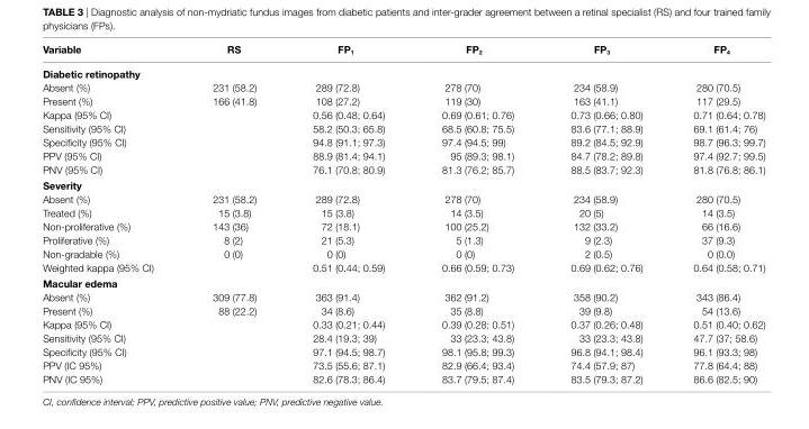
<table><thead><tr><td>Variable</td><td>rs</td><td>FP<sub>1</sub></td><td>FP<sub>2</sub></td><td>FP<sub>3</sub></td><td>FP<sub>4</sub></td></tr></thead><tbody><tr><td colspan="6">Diabetic retinopathy</td></tr><tr><td>Absent (%)</td><td>231 (58.2)</td><td>289 (72.8)</td><td>278 (70)</td><td>234 (58.9)</td><td>280 (70.5)</td></tr><tr><td>Present (%)</td><td>166 (41.8)</td><td>108 (27.2)</td><td>119 (30)</td><td>163 (41.1)</td><td>117 (29.5)</td></tr><tr><td>Kappa (95% CI)</td><td></td><td>0.56 (0.48; 0.64)</td><td>0.69 (0.61; 0.76)</td><td>0.73 (0.66; 0.80)</td><td>0.71 (0.64; 0.78)</td></tr><tr><td>Sensitivity (95% CI)</td><td></td><td>58.2 (50.3; 65.8)</td><td>68.5 (60.8; 75.5)</td><td>83.6 (77.1; 88.9)</td><td>69.1 (61.4; 76)</td></tr><tr><td>Specificity (95% CI)</td><td></td><td>94.8 (91.1; 97.3)</td><td>97.4 (94.5; 99)</td><td>89.2 (84.5; 92.9)</td><td>98.7 (96.3; 99.7)</td></tr><tr><td>PPV (95% CI)</td><td></td><td>88.9 (81.4; 94.1)</td><td>95 (89.3; 98.1)</td><td>84.7 (78.2; 89.8)</td><td>97.4 (92.7; 99.5)</td></tr><tr><td>PNV (95% CI)</td><td></td><td>76.1 (70.8; 80.9)</td><td>81.3 (76.2; 85.7)</td><td>88.5 (83.7; 92.3)</td><td>81.8 (76.8; 86.1)</td></tr><tr><td colspan="6">severity</td></tr><tr><td>Absent (%)</td><td>231 (58.2)</td><td>289 (72.8)</td><td>278 (70)</td><td>234 (58.9)</td><td>280 (70.5)</td></tr><tr><td>Treated (%)</td><td>15 (3.8)</td><td>15 (3.8)</td><td>14 (3.5)</td><td>20 (5)</td><td>14 (3.5)</td></tr><tr><td>Non-proliferative (%)</td><td>143 (36)</td><td>72 (18.1)</td><td>100 (25.2)</td><td>132 (33.2)</td><td>66 (16.6)</td></tr><tr><td>Proliferative (%)</td><td>8 (2)</td><td>21 (5.3)</td><td>5 (1.3)</td><td>9 (2.3)</td><td>37 (9.3)</td></tr><tr><td>Non-gradable (%)</td><td>0 (0)</td><td>0 (0)</td><td>0 (0)</td><td>2 (0.5)</td><td>0 (0.0)</td></tr><tr><td>Weighted kappa (95% CI)</td><td></td><td>0.51 (0.44; 0.59)</td><td>0.66 (0.59; 0.73)</td><td>0.69 (0.62; 0.76)</td><td>0.64 (0.58; 0.71)</td></tr><tr><td colspan="6">Macular edema</td></tr><tr><td>Absent (%)</td><td>309 (77.8)</td><td>363 (91.4)</td><td>362 (91.2)</td><td>358 (90.2)</td><td>343 (86.4)</td></tr><tr><td>Present (%)</td><td>88 (22.2)</td><td>34 (8.6)</td><td>35 (8.8)</td><td>39 (9.8)</td><td>54 (13.6)</td></tr><tr><td>Kappa (95% CI)</td><td></td><td>0.33 (0.21; 0.44)</td><td>0.39 (0.28; 0.51)</td><td>0.37 (0.26; 0.48)</td><td>0.51 (0.40; 0.62)</td></tr><tr><td>Sensitivity (95% CI)</td><td></td><td>28.4 (19.3; 39)</td><td>33 (23.3; 43.8)</td><td>33 (23.3; 43.8)</td><td>47.7 (37; 58.6)</td></tr><tr><td>Specificity (95% CI)</td><td></td><td>97.1 (94.5; 98.7)</td><td>98.1 (95.8; 99.3)</td><td>96.8 (94.1; 98.4)</td><td>96.1 (93.3; 98)</td></tr><tr><td>PPV (IC 95%)</td><td></td><td>73.5 (55.6; 87.1)</td><td>82.9 (66.4; 93.4)</td><td>74.4 (57.9; 87)</td><td>77.8 (64.4; 88)</td></tr><tr><td>PNV (IC 95%)</td><td></td><td>82.6 (78.3; 86.4)</td><td>83.7 (79.5; 87.4)</td><td>83.5 (79.3; 87.2)</td><td>86.6 (82.5; 90)</td></tr></tbody></table>